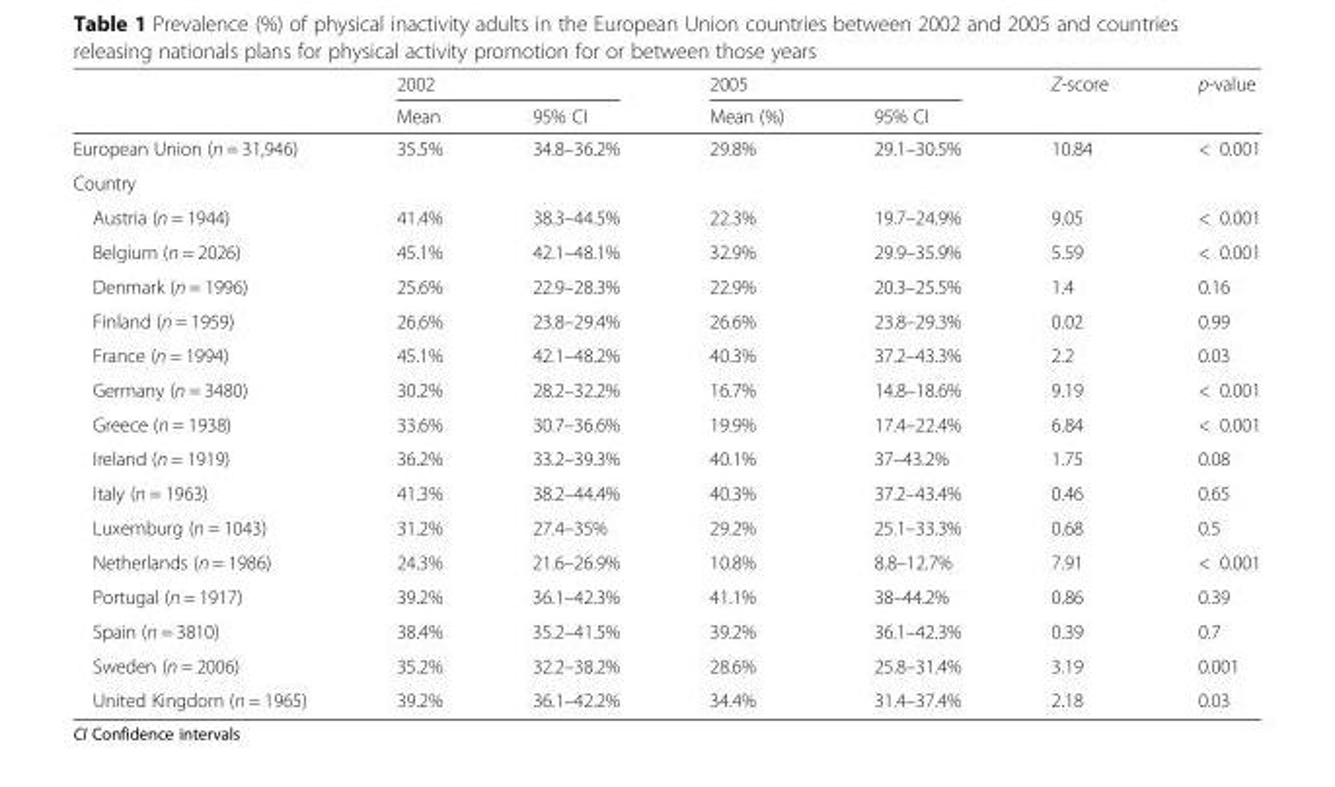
<table><thead><tr><td rowspan="2"></td><td colspan="2">2002</td><td colspan="2">2005</td><td rowspan="2">Z-score</td><td rowspan="2">p-value</td></tr><tr><td>Mean</td><td>95% CI</td><td>Mean (%)</td><td>95% CI</td></tr></thead><tbody><tr><td>European Union (n = 31,946)</td><td>35.5%</td><td>34.8–36.2%</td><td>29.8%</td><td>29.1–30.5%</td><td>10.84</td><td>&lt; 0.001</td></tr><tr><td colspan="7">Country</td></tr><tr><td>Austria (n = 1944)</td><td>41.4%</td><td>38.3–44.5%</td><td>22.3%</td><td>19.7–24.9%</td><td>9.05</td><td>&lt; 0.001</td></tr><tr><td>Belgium (n = 2026)</td><td>45.1%</td><td>42.1–48.1%</td><td>32.9%</td><td>29.9–35.9%</td><td>5.59</td><td>&lt; 0.001</td></tr><tr><td>Denmark (n = 1996)</td><td>25.6%</td><td>22.9–28.3%</td><td>22.9%</td><td>20.3–25.5%</td><td>1.4</td><td>0.16</td></tr><tr><td>Finland (n = 1959)</td><td>26.6%</td><td>23.8–29.4%</td><td>26.6%</td><td>23.8–29.3%</td><td>0.02</td><td>0.99</td></tr><tr><td>France (n = 1994)</td><td>45.1%</td><td>42.1–48.2%</td><td>40.3%</td><td>37.2–43.3%</td><td>2.2</td><td>0.03</td></tr><tr><td>Germany (n = 3480)</td><td>30.2%</td><td>28.2–32.2%</td><td>16.7%</td><td>14.8–18.6%</td><td>9.19</td><td>&lt; 0.001</td></tr><tr><td>Greece (n = 1938)</td><td>33.6%</td><td>30.7–36.6%</td><td>19.9%</td><td>17.4–22.4%</td><td>6.84</td><td>&lt; 0.001</td></tr><tr><td>Ireland (n = 1919)</td><td>36.2%</td><td>33.2–39.3%</td><td>40.1%</td><td>37–43.2%</td><td>1.75</td><td>0.08</td></tr><tr><td>Italy (n = 1963)</td><td>41.3%</td><td>38.2–44.4%</td><td>40.3%</td><td>37.2–43.4%</td><td>0.46</td><td>0.65</td></tr><tr><td>Luxemburg (n = 1043)</td><td>31.2%</td><td>27.4–35%</td><td>29.2%</td><td>25.1–33.3%</td><td>0.68</td><td>0.5</td></tr><tr><td>Netherlands (n = 1986)</td><td>24.3%</td><td>21.6–26.9%</td><td>10.8%</td><td>8.8–12.7%</td><td>7.91</td><td>&lt; 0.001</td></tr><tr><td>Portugal (n = 1917)</td><td>39.2%</td><td>36.1–42.3%</td><td>41.1%</td><td>38–44.2%</td><td>0.86</td><td>0.39</td></tr><tr><td>Spain (n = 3810)</td><td>38.4%</td><td>35.2–41.5%</td><td>39.2%</td><td>36.1–42.3%</td><td>0.39</td><td>0.7</td></tr><tr><td>Sweden (n = 2006)</td><td>35.2%</td><td>32.2–38.2%</td><td>28.6%</td><td>25.8–31.4%</td><td>3.19</td><td>0.001</td></tr><tr><td>United Kingdom (n = 1965)</td><td>39.2%</td><td>36.1–42.2%</td><td>34.4%</td><td>31.4–37.4%</td><td>2.18</td><td>0.03</td></tr></tbody></table>